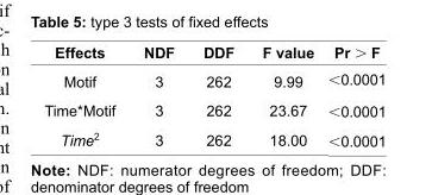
<table><thead><tr><td>Effects</td><td>NDF</td><td>DDF</td><td>F value</td><td>Pr &gt; F</td></tr></thead><tbody><tr><td>Motif</td><td>3</td><td>262</td><td>9.99</td><td>&lt;0.0001</td></tr><tr><td>Time*Motif</td><td>3</td><td>262</td><td>23.67</td><td>&lt;0.0001</td></tr><tr><td>Time<sup>2</sup></td><td>3</td><td>262</td><td>18.00</td><td>&lt;0.0001</td></tr></tbody></table>